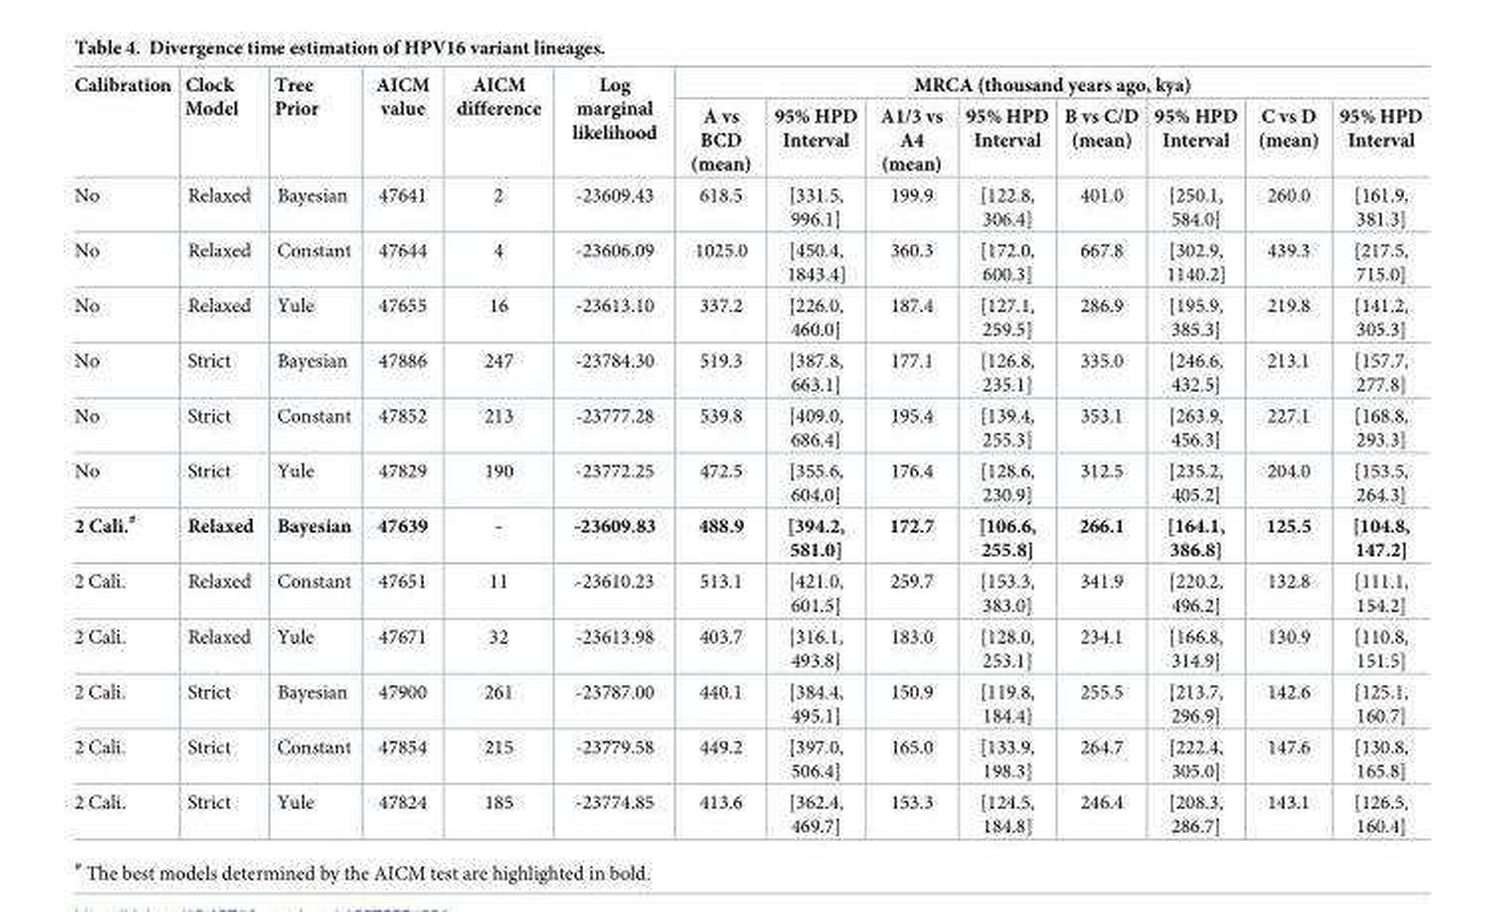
<table><thead><tr><td rowspan="2">Calibration</td><td rowspan="2">Clock Model</td><td rowspan="2">Tree Prior</td><td rowspan="2">AICM value</td><td rowspan="2">AICM difference</td><td rowspan="2">Log marginal likelihood</td><td colspan="8">MRCA (thousand years ago, kya)</td></tr><tr><td>A vs BCD (mean)</td><td>95% HPD Interval</td><td>A1/3 vs A4 (mean)</td><td>95% HPD Interval</td><td>B vs C/D (mean)</td><td>95% HPD Interval</td><td>C vs D (mean)</td><td>95% HPD Interval</td></tr></thead><tbody><tr><td>No</td><td>Relaxed</td><td>Bayesian</td><td>47641</td><td>2</td><td>-23609.43</td><td>618.5</td><td>[331.5, 996.1]</td><td>199.9</td><td>[122.8, 306.4]</td><td>401.0</td><td>[250.1, 584.0]</td><td>260.0</td><td>[161.9, 381.3]</td></tr><tr><td>No</td><td>Relaxed</td><td>Constant</td><td>47644</td><td>4</td><td>-23606.09</td><td>1025.0</td><td>[450.4, 1843.4]</td><td>360.3</td><td>[172.0, 600.3]</td><td>667.8</td><td>[302.9, 1140.2]</td><td>439.3</td><td>[217.5, 715.0]</td></tr><tr><td>No</td><td>Relaxed</td><td>Yule</td><td>47655</td><td>16</td><td>-23613.10</td><td>337.2</td><td>[226.0, 460.0]</td><td>187.4</td><td>[127.1, 259.5]</td><td>286.9</td><td>[195.9, 385.3]</td><td>219.8</td><td>[141.2, 305.3]</td></tr><tr><td>No</td><td>Strict</td><td>Bayesian</td><td>47886</td><td>247</td><td>-23784.30</td><td>519.3</td><td>[387.8, 663.1]</td><td>177.1</td><td>[126.8, 235.1]</td><td>335.0</td><td>[246.6, 432.5]</td><td>213.1</td><td>[157.7, 277.8]</td></tr><tr><td>No</td><td>Strict</td><td>Constant</td><td>47852</td><td>213</td><td>-23777.28</td><td>539.8</td><td>[409.0, 686.4]</td><td>195.4</td><td>[139.4, 255.3]</td><td>353.1</td><td>[263.9, 456.3]</td><td>227.1</td><td>[168.8, 293.3]</td></tr><tr><td>No</td><td>Strict</td><td>Yule</td><td>47829</td><td>190</td><td>-23772.25</td><td>472.5</td><td>[355.6, 604.0]</td><td>176.4</td><td>[128.6, 230.9]</td><td>312.5</td><td>[235.2, 405.2]</td><td>204.0</td><td>[153.5, 264.3]</td></tr><tr><td>2 Cali.<sup>#</sup></td><td>Relaxed</td><td>Bayesian</td><td>47639</td><td>-</td><td>-23609.83</td><td>488.9</td><td>[394.2, 581.0]</td><td>172.7</td><td>[106.6, 255.8]</td><td>266.1</td><td>[164.1, 386.8]</td><td>125.5</td><td>[104.8, 147.2]</td></tr><tr><td>2 Cali.</td><td>Relaxed</td><td>Constant</td><td>47651</td><td>11</td><td>-23610.23</td><td>513.1</td><td>[421.0, 601.5]</td><td>259.7</td><td>[153.3, 383.0]</td><td>341.9</td><td>[220.2, 496.2]</td><td>132.8</td><td>[111.1, 154.2]</td></tr><tr><td>2 Cali.</td><td>Relaxed</td><td>Yule</td><td>47671</td><td>32</td><td>-23613.98</td><td>403.7</td><td>[316.1, 493.8]</td><td>183.0</td><td>[128.0, 253.1]</td><td>234.1</td><td>[166.8, 314.9]</td><td>130.9</td><td>[110.8, 151.5]</td></tr><tr><td>2 Cali.</td><td>Strict</td><td>Bayesian</td><td>47900</td><td>261</td><td>-23787.00</td><td>440.1</td><td>[384.4, 495.1]</td><td>150.9</td><td>[119.8, 184.4]</td><td>255.5</td><td>[213.7, 296.9]</td><td>142.6</td><td>[125.1, 160.7]</td></tr><tr><td>2 Cali.</td><td>Strict</td><td>Constant</td><td>47854</td><td>215</td><td>-23779.58</td><td>449.2</td><td>[397.0, 506.4]</td><td>165.0</td><td>[133.9, 198.3]</td><td>264.7</td><td>[222.4, 305.0]</td><td>147.6</td><td>[130.8, 165.8]</td></tr><tr><td>2 Cali.</td><td>Strict</td><td>Yule</td><td>47824</td><td>185</td><td>-23774.85</td><td>413.6</td><td>[362.4, 469.7]</td><td>153.3</td><td>[124.5, 184.8]</td><td>246.4</td><td>[208.3, 286.7]</td><td>143.1</td><td>[126.5, 160.4]</td></tr></tbody></table>